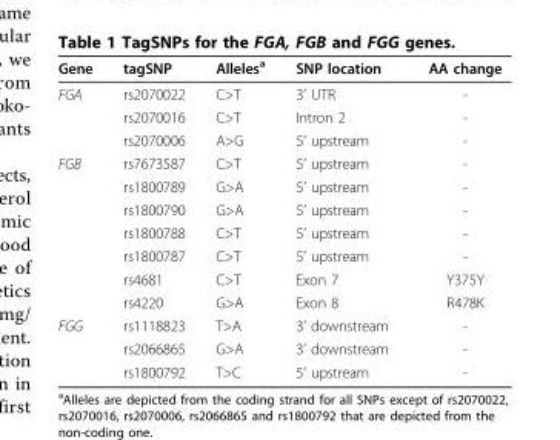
<table><thead><tr><td>Gene</td><td>tagSNP</td><td>Alleles<sup>a</sup></td><td>SNP location</td><td>AA change</td></tr></thead><tbody><tr><td rowspan="3">FGA</td><td>rs2070022</td><td>C&gt;T</td><td>3’ UTR</td><td>-</td></tr><tr><td>rs2070016</td><td>C&gt;T</td><td>Intron 2</td><td>-</td></tr><tr><td>rs2070006</td><td>A&gt;G</td><td>5’ upstream</td><td>-</td></tr><tr><td rowspan="7">FGB</td><td>rs7673587</td><td>C&gt;T</td><td>5’ upstream</td><td>-</td></tr><tr><td>rs1800789</td><td>G&gt;A</td><td>5’ upstream</td><td>-</td></tr><tr><td>rs1800790</td><td>G&gt;A</td><td>5’ upstream</td><td>-</td></tr><tr><td>rs1800788</td><td>C&gt;T</td><td>5’ upstream</td><td>-</td></tr><tr><td>rs1800787</td><td>C&gt;T</td><td>5’ upstream</td><td>-</td></tr><tr><td>rs4681</td><td>C&gt;T</td><td>Exon 7</td><td>Y375Y</td></tr><tr><td>rs4220</td><td>G&gt;A</td><td>Exon 8</td><td>R478K</td></tr><tr><td rowspan="3">FGG</td><td>rs1118823</td><td>T&gt;A</td><td>3’ downstream</td><td>-</td></tr><tr><td>rs2066865</td><td>G&gt;A</td><td>3’ downstream</td><td>-</td></tr><tr><td>rs1800792</td><td>T&gt;C</td><td>5’ upstream</td><td>-</td></tr></tbody></table>